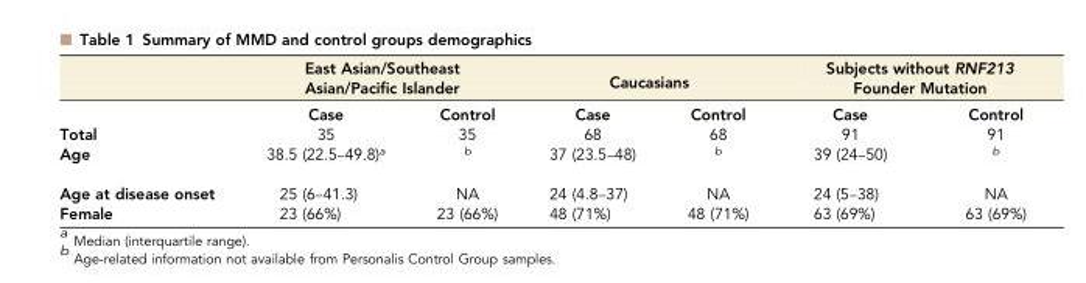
<table><thead><tr><td rowspan="2"></td><td colspan="2">East Asian/Southeast Asian/Pacific Islander</td><td colspan="2">Caucasians</td><td colspan="2">Subjects without RNF213 Founder Mutation</td></tr><tr><td>Case</td><td>Control</td><td>Case</td><td>Control</td><td>Case</td><td>Control</td></tr></thead><tbody><tr><td>Total</td><td>35</td><td>35</td><td>68</td><td>68</td><td>91</td><td>91</td></tr><tr><td>Age</td><td>38.5 (22.5–49.8)<sup>a</sup></td><td><sup>b</sup></td><td>37 (23.5–48)</td><td><sup>b</sup></td><td>39 (24–50)</td><td><sup>b</sup></td></tr><tr><td>Age at disease onset</td><td>25 (6–41.3)</td><td>NA</td><td>24 (4.8–37)</td><td>NA</td><td>24 (5–38)</td><td>NA</td></tr><tr><td>Female</td><td>23 (66%)</td><td>23 (66%)</td><td>48 (71%)</td><td>48 (71%)</td><td>63 (69%)</td><td>63 (69%)</td></tr></tbody></table>